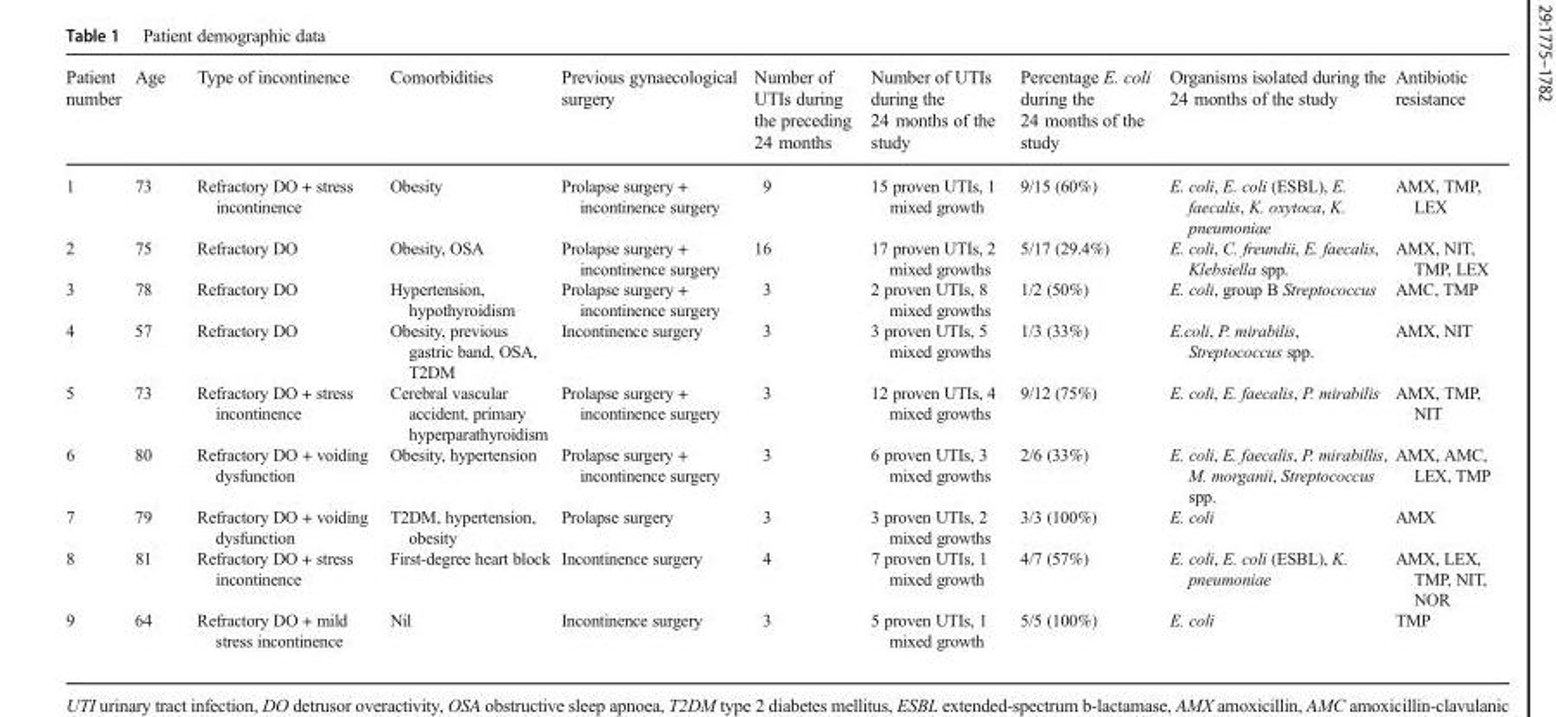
<table><thead><tr><td>Patient number</td><td>Age</td><td>Type of incontinence</td><td>Comorbidities</td><td>Previous gynaecological surgery</td><td>Number of UTIs during the preceding 24 months</td><td>Number of UTIs during the 24 months of the study</td><td>Percentage E. coli during the 24 months of the study</td><td>Organisms isolated during the 24 months of the study</td><td>Antibiotic resistance</td></tr></thead><tbody><tr><td>1</td><td>73</td><td>Refractory DO + stress incontinence</td><td>Obesity</td><td>Prolapse surgery + incontinence surgery</td><td>9</td><td>15 proven UTIs, 1 mixed growth</td><td>9/15 (60%)</td><td>E. coli, E. coli (ESBL), E. faecalis, K. oxytoca, K. pneumoniae</td><td>AMX, TMP, LEX</td></tr><tr><td>2</td><td>75</td><td>Refractory DO</td><td>Obesity, OSA</td><td>Prolapse surgery + incontinence surgery</td><td>16</td><td>17 proven UTIs, 2 mixed growths</td><td>5/17 (29.4%)</td><td>E. coli, C. freundii, E. faecalis, Klebsiella spp.</td><td>AMX, NIT, TMP, LEX</td></tr><tr><td>3</td><td>78</td><td>Refractory DO</td><td>Hypertension, hypothyroidism</td><td>Prolapse surgery + incontinence surgery</td><td>3</td><td>2 proven UTIs, 8 mixed growths</td><td>1/2 (50%)</td><td>E. coli, group B Streptococcus</td><td>AMC, TMP</td></tr><tr><td>4</td><td>57</td><td>Refractory DO</td><td>Obesity, previous gastric band, OSA, T2DM</td><td>Incontinence surgery</td><td>3</td><td>3 proven UTIs, 5 mixed growths</td><td>1/3 (33%)</td><td>E.coli, P. mirabilis, Streptococcus spp.</td><td>AMX, NIT</td></tr><tr><td>5</td><td>73</td><td>Refractory DO + stress incontinence</td><td>Cerebral vascular accident, primary hyperparathyroidism</td><td>Prolapse surgery + incontinence surgery</td><td>3</td><td>12 proven UTIs, 4 mixed growths</td><td>9/12 (75%)</td><td>E. coli, E. faecalis, P. mirabilis</td><td>AMX, TMP, NIT</td></tr><tr><td>6</td><td>80</td><td>Refractory DO + voiding dysfunction</td><td>Obesity, hypertension</td><td>Prolapse surgery + incontinence surgery</td><td>3</td><td>6 proven UTIs, 3 mixed growths</td><td>2/6 (33%)</td><td>E. coli, E. faecalis, P. mirabillis, M. morganii, Streptococcus spp.</td><td>AMX, AMC, LEX, TMP</td></tr><tr><td>7</td><td>79</td><td>Refractory DO + voiding dysfunction</td><td>T2DM, hypertension, obesity</td><td>Prolapse surgery</td><td>3</td><td>3 proven UTIs, 2 mixed growths</td><td>3/3 (100%)</td><td>E. coli</td><td>AMX</td></tr><tr><td>8</td><td>81</td><td>Refractory DO + stress incontinence</td><td>First-degree heart block</td><td>Incontinence surgery</td><td>4</td><td>7 proven UTIs, 1 mixed growth</td><td>4/7 (57%)</td><td>E. coli, E. coli (ESBL), K. pneumoniae</td><td>AMX, LEX, TMP, NIT, NOR</td></tr><tr><td>9</td><td>64</td><td>Refractory DO + mild stress incontinence</td><td>Nil</td><td>Incontinence surgery</td><td>3</td><td>5 proven UTIs, 1 mixed growth</td><td>5/5 (100%)</td><td>E. coli</td><td>TMP</td></tr></tbody></table>